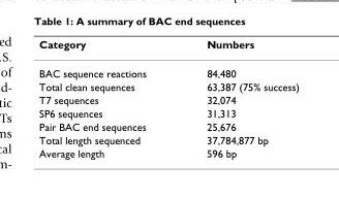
<table><thead><tr><td>Category</td><td>Numbers</td></tr></thead><tbody><tr><td>BAC sequence reactions</td><td>84,480</td></tr><tr><td>Total clean sequences</td><td>63,387 (75% success)</td></tr><tr><td>T7 sequences</td><td>32,074</td></tr><tr><td>SP6 sequences</td><td>31,313</td></tr><tr><td>Pair BAC end sequences</td><td>25,676</td></tr><tr><td>Total length sequenced</td><td>37,784,877 bp</td></tr><tr><td>Average length</td><td>596 bp</td></tr></tbody></table>